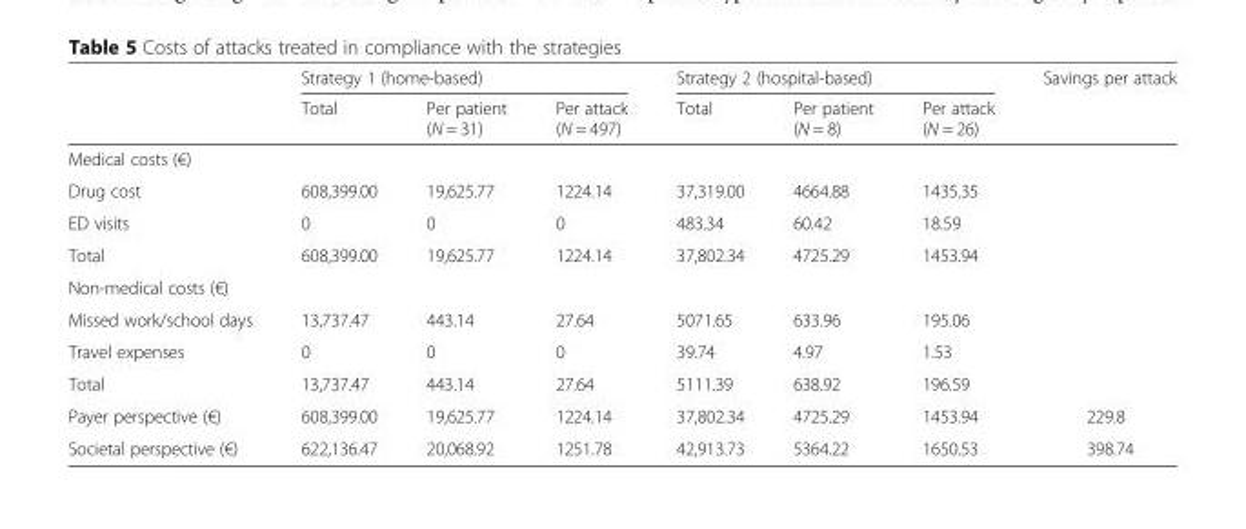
<table><thead><tr><td rowspan="2"></td><td colspan="3">Strategy 1 (home-based)</td><td colspan="3">Strategy 2 (hospital-based)</td><td rowspan="2">Savings per attack</td></tr><tr><td>Total</td><td>Per patient (N = 31)</td><td>Per attack (N = 497)</td><td>Total</td><td>Per patient (N = 8)</td><td>Per attack (N = 26)</td></tr></thead><tbody><tr><td colspan="8">Medical costs (€)</td></tr><tr><td>Drug cost</td><td>608,399.00</td><td>19,625.77</td><td>1224.14</td><td>37,319.00</td><td>4664.88</td><td>1435.35</td><td></td></tr><tr><td>ED visits</td><td>0</td><td>0</td><td>0</td><td>483.34</td><td>60.42</td><td>18.59</td><td></td></tr><tr><td>Total</td><td>608,399.00</td><td>19,625.77</td><td>1224.14</td><td>37,802.34</td><td>4725.29</td><td>1453.94</td><td></td></tr><tr><td colspan="8">Non-medical costs (€)</td></tr><tr><td>Missed work/school days</td><td>13,737.47</td><td>443.14</td><td>27.64</td><td>5071.65</td><td>633.96</td><td>195.06</td><td></td></tr><tr><td>Travel expenses</td><td>0</td><td>0</td><td>0</td><td>39.74</td><td>4.97</td><td>1.53</td><td></td></tr><tr><td>Total</td><td>13,737.47</td><td>443.14</td><td>27.64</td><td>5111.39</td><td>638.92</td><td>196.59</td><td></td></tr><tr><td>Payer perspective (€)</td><td>608,399.00</td><td>19,625.77</td><td>1224.14</td><td>37,802.34</td><td>4725.29</td><td>1453.94</td><td>229.8</td></tr><tr><td>Societal perspective (€)</td><td>622,136.47</td><td>20,068.92</td><td>1251.78</td><td>42,913.73</td><td>5364.22</td><td>1650.53</td><td>398.74</td></tr></tbody></table>